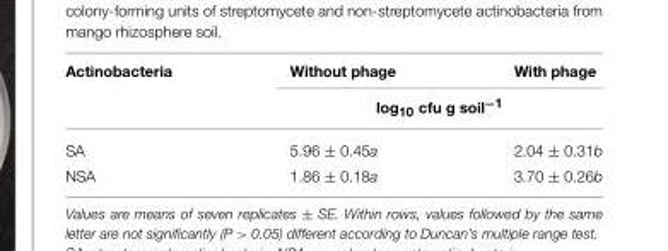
<table><thead><tr><td rowspan="2">Actinobacteria</td><td>Without phage</td><td>With phage</td></tr><tr><td colspan="2">log<sub>10</sub> cfu g soil<sup>−1</sup></td></tr></thead><tbody><tr><td>SA</td><td>5.96 ± 0.45a</td><td>2.04 ± 0.31b</td></tr><tr><td>NSA</td><td>1.86 ± 0.18a</td><td>3.70 ± 0.26b</td></tr></tbody></table>